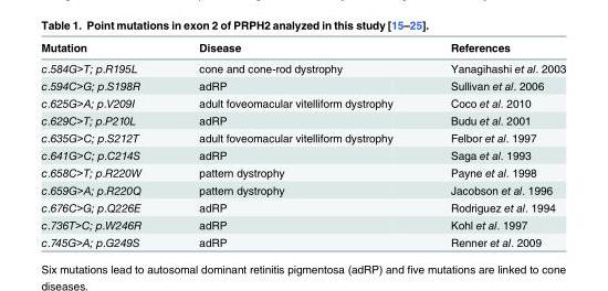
<table><thead><tr><td>Mutation</td><td>Disease</td><td>References</td></tr></thead><tbody><tr><td>c.584G&gt;T; p.R195L</td><td>cone and cone-rod dystrophy</td><td>Yanagihashi et al. 2003</td></tr><tr><td>c.594C&gt;G; p.S198R</td><td>adRP</td><td>Sullivan et al. 2006</td></tr><tr><td>c.625G&gt;A; p.V209I</td><td>adult foveomacular vitelliform dystrophy</td><td>Coco et al. 2010</td></tr><tr><td>c.629C&gt;T; p.P210L</td><td>adRP</td><td>Budu et al. 2001</td></tr><tr><td>c.635G&gt;C; p.S212T</td><td>adult foveomacular vitelliform dystrophy</td><td>Felbor et al. 1997</td></tr><tr><td>c.641G&gt;C; p.C214S</td><td>adRP</td><td>Saga et al. 1993</td></tr><tr><td>c.658C&gt;T; p.R220W</td><td>pattern dystrophy</td><td>Payne et al. 1998</td></tr><tr><td>c.659G&gt;A; p.R220Q</td><td>pattern dystrophy</td><td>Jacobson et al. 1996</td></tr><tr><td>c.676C&gt;G; p.Q226E</td><td>adRP</td><td>Rodriguez et al. 1994</td></tr><tr><td>c.736T&gt;C; p.W246R</td><td>adRP</td><td>Kohl et al. 1997</td></tr><tr><td>c.745G&gt;A; p.G249S</td><td>adRP</td><td>Renner et al. 2009</td></tr></tbody></table>